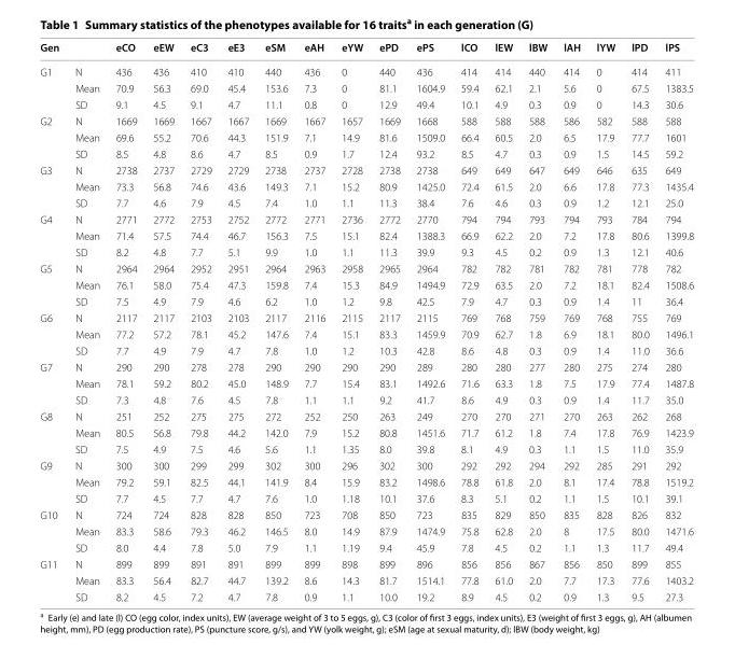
<table><thead><tr><td>Gen</td><td></td><td>eCO</td><td>eEW</td><td>eC3</td><td>eE3</td><td>eSM</td><td>eAH</td><td>eYW</td><td>ePD</td><td>ePS</td><td>lCO</td><td>lEW</td><td>lBW</td><td>lAH</td><td>lYW</td><td>lPD</td><td>lPS</td></tr></thead><tbody><tr><td rowspan="3">G1</td><td>N</td><td>436</td><td>436</td><td>410</td><td>410</td><td>440</td><td>436</td><td>0</td><td>440</td><td>436</td><td>414</td><td>414</td><td>440</td><td>414</td><td>0</td><td>414</td><td>411</td></tr><tr><td>Mean</td><td>70.9</td><td>56.3</td><td>69.0</td><td>45.4</td><td>153.6</td><td>7.3</td><td>0</td><td>81.1</td><td>1604.9</td><td>59.4</td><td>62.1</td><td>2.1</td><td>5.6</td><td>0</td><td>67.5</td><td>1383.5</td></tr><tr><td>SD</td><td>9.1</td><td>4.5</td><td>9.1</td><td>4.7</td><td>11.1</td><td>0.8</td><td>0</td><td>12.9</td><td>49.4</td><td>10.1</td><td>4.9</td><td>0.3</td><td>0.9</td><td>0</td><td>14.3</td><td>30.6</td></tr><tr><td rowspan="3">G2</td><td>N</td><td>1669</td><td>1669</td><td>1667</td><td>1667</td><td>1669</td><td>1667</td><td>1657</td><td>1669</td><td>1668</td><td>588</td><td>588</td><td>588</td><td>586</td><td>582</td><td>588</td><td>588</td></tr><tr><td>Mean</td><td>69.6</td><td>55.2</td><td>70.6</td><td>44.3</td><td>151.9</td><td>7.1</td><td>14.9</td><td>81.6</td><td>1509.0</td><td>66.4</td><td>60.5</td><td>2.0</td><td>6.5</td><td>17.9</td><td>77.7</td><td>1601</td></tr><tr><td>SD</td><td>8.5</td><td>4.8</td><td>8.6</td><td>4.7</td><td>8.5</td><td>0.9</td><td>1.7</td><td>12.4</td><td>93.2</td><td>8.5</td><td>4.7</td><td>0.3</td><td>0.9</td><td>1.5</td><td>14.5</td><td>59.2</td></tr><tr><td rowspan="3">G3</td><td>N</td><td>2738</td><td>2737</td><td>2729</td><td>2729</td><td>2738</td><td>2737</td><td>2728</td><td>2738</td><td>2738</td><td>649</td><td>649</td><td>647</td><td>649</td><td>646</td><td>635</td><td>649</td></tr><tr><td>Mean</td><td>73.3</td><td>56.8</td><td>74.6</td><td>43.6</td><td>149.3</td><td>7.1</td><td>15.2</td><td>80.9</td><td>1425.0</td><td>72.4</td><td>61.5</td><td>2.0</td><td>6.6</td><td>17.8</td><td>77.3</td><td>1435.4</td></tr><tr><td>SD</td><td>7.7</td><td>4.6</td><td>7.9</td><td>4.5</td><td>7.4</td><td>1.0</td><td>1.1</td><td>11.3</td><td>38.4</td><td>7.6</td><td>4.6</td><td>0.3</td><td>0.9</td><td>1.2</td><td>12.1</td><td>25.0</td></tr><tr><td rowspan="3">G4</td><td>N</td><td>2771</td><td>2772</td><td>2753</td><td>2752</td><td>2772</td><td>2771</td><td>2736</td><td>2772</td><td>2770</td><td>794</td><td>794</td><td>793</td><td>794</td><td>793</td><td>784</td><td>794</td></tr><tr><td>Mean</td><td>71.4</td><td>57.5</td><td>74.4</td><td>46.7</td><td>156.3</td><td>7.5</td><td>15.1</td><td>82.4</td><td>1388.3</td><td>66.9</td><td>62.2</td><td>2.0</td><td>7.2</td><td>17.8</td><td>80.6</td><td>1399.8</td></tr><tr><td>SD</td><td>8.2</td><td>4.8</td><td>7.7</td><td>5.1</td><td>9.9</td><td>1.0</td><td>1.1</td><td>11.3</td><td>39.9</td><td>9.3</td><td>4.5</td><td>0.2</td><td>0.9</td><td>1.3</td><td>12.1</td><td>40.6</td></tr><tr><td rowspan="3">G5</td><td>N</td><td>2964</td><td>2964</td><td>2952</td><td>2951</td><td>2964</td><td>2963</td><td>2958</td><td>2965</td><td>2964</td><td>782</td><td>782</td><td>781</td><td>782</td><td>781</td><td>778</td><td>782</td></tr><tr><td>Mean</td><td>76.1</td><td>58.0</td><td>75.4</td><td>47.3</td><td>159.8</td><td>7.4</td><td>15.3</td><td>84.9</td><td>1494.9</td><td>72.9</td><td>63.5</td><td>2.0</td><td>7.2</td><td>18.1</td><td>82.4</td><td>1508.6</td></tr><tr><td>SD</td><td>7.5</td><td>4.9</td><td>7.9</td><td>4.6</td><td>6.2</td><td>1.0</td><td>1.2</td><td>9.8</td><td>42.5</td><td>7.9</td><td>4.7</td><td>0.3</td><td>0.9</td><td>1.4</td><td>11</td><td>36.4</td></tr><tr><td rowspan="3">G6</td><td>N</td><td>2117</td><td>2117</td><td>2103</td><td>2103</td><td>2117</td><td>2116</td><td>2115</td><td>2117</td><td>2115</td><td>769</td><td>768</td><td>759</td><td>769</td><td>768</td><td>755</td><td>769</td></tr><tr><td>Mean</td><td>77.2</td><td>57.2</td><td>78.1</td><td>45.2</td><td>147.6</td><td>7.4</td><td>15.1</td><td>83.3</td><td>1459.9</td><td>70.9</td><td>62.7</td><td>1.8</td><td>6.9</td><td>18.1</td><td>80.0</td><td>1496.1</td></tr><tr><td>SD</td><td>7.7</td><td>4.9</td><td>7.9</td><td>4.7</td><td>7.8</td><td>1.0</td><td>1.2</td><td>10.3</td><td>42.8</td><td>8.6</td><td>4.8</td><td>0.3</td><td>0.9</td><td>1.4</td><td>11.0</td><td>36.6</td></tr><tr><td rowspan="3">G7</td><td>N</td><td>290</td><td>290</td><td>278</td><td>278</td><td>290</td><td>290</td><td>290</td><td>290</td><td>289</td><td>280</td><td>280</td><td>277</td><td>280</td><td>275</td><td>274</td><td>280</td></tr><tr><td>Mean</td><td>78.1</td><td>59.2</td><td>80.2</td><td>45.0</td><td>148.9</td><td>7.7</td><td>15.4</td><td>83.1</td><td>1492.6</td><td>71.6</td><td>63.3</td><td>1.8</td><td>7.5</td><td>17.9</td><td>77.4</td><td>1487.8</td></tr><tr><td>SD</td><td>7.3</td><td>4.8</td><td>7.6</td><td>4.5</td><td>7.8</td><td>1.1</td><td>1.1</td><td>9.2</td><td>41.7</td><td>8.6</td><td>4.9</td><td>0.3</td><td>0.9</td><td>1.4</td><td>11.7</td><td>35.0</td></tr><tr><td rowspan="3">G8</td><td>N</td><td>251</td><td>252</td><td>275</td><td>275</td><td>272</td><td>252</td><td>250</td><td>263</td><td>249</td><td>270</td><td>270</td><td>271</td><td>270</td><td>263</td><td>262</td><td>268</td></tr><tr><td>Mean</td><td>80.5</td><td>56.8</td><td>79.8</td><td>44.2</td><td>142.0</td><td>7.9</td><td>15.2</td><td>80.8</td><td>1451.6</td><td>71.7</td><td>61.2</td><td>1.8</td><td>7.4</td><td>17.8</td><td>76.9</td><td>1423.9</td></tr><tr><td>SD</td><td>7.5</td><td>4.9</td><td>7.5</td><td>4.6</td><td>5.6</td><td>1.1</td><td>1.35</td><td>8.0</td><td>39.8</td><td>8.1</td><td>4.9</td><td>0.3</td><td>1.1</td><td>1.5</td><td>11.0</td><td>35.9</td></tr><tr><td rowspan="3">G9</td><td>N</td><td>300</td><td>300</td><td>299</td><td>299</td><td>302</td><td>300</td><td>296</td><td>302</td><td>300</td><td>292</td><td>292</td><td>294</td><td>292</td><td>285</td><td>291</td><td>292</td></tr><tr><td>Mean</td><td>79.2</td><td>59.1</td><td>82.5</td><td>44.1</td><td>141.9</td><td>8.4</td><td>15.9</td><td>83.2</td><td>1498.6</td><td>78.8</td><td>61.8</td><td>2.0</td><td>8.1</td><td>17.4</td><td>78.8</td><td>1519.2</td></tr><tr><td>SD</td><td>7.7</td><td>4.5</td><td>7.7</td><td>4.7</td><td>7.6</td><td>1.0</td><td>1.18</td><td>10.1</td><td>37.6</td><td>8.3</td><td>5.1</td><td>0.2</td><td>1.1</td><td>1.5</td><td>10.1</td><td>39.1</td></tr><tr><td rowspan="3">G10</td><td>N</td><td>724</td><td>724</td><td>828</td><td>828</td><td>850</td><td>723</td><td>708</td><td>850</td><td>723</td><td>835</td><td>829</td><td>850</td><td>835</td><td>828</td><td>826</td><td>832</td></tr><tr><td>Mean</td><td>83.3</td><td>58.6</td><td>79.3</td><td>46.2</td><td>146.5</td><td>8.0</td><td>14.9</td><td>87.9</td><td>1474.9</td><td>75.8</td><td>62.8</td><td>2.0</td><td>8</td><td>17.5</td><td>80.0</td><td>1471.6</td></tr><tr><td>SD</td><td>8.0</td><td>4.4</td><td>7.8</td><td>5.0</td><td>7.9</td><td>1.1</td><td>1.19</td><td>9.4</td><td>45.9</td><td>7.8</td><td>4.5</td><td>0.2</td><td>1.1</td><td>1.3</td><td>11.7</td><td>49.4</td></tr><tr><td rowspan="3">G11</td><td>N</td><td>899</td><td>899</td><td>891</td><td>891</td><td>899</td><td>899</td><td>898</td><td>899</td><td>896</td><td>856</td><td>856</td><td>867</td><td>856</td><td>850</td><td>899</td><td>855</td></tr><tr><td>Mean</td><td>83.3</td><td>56.4</td><td>82.7</td><td>44.7</td><td>139.2</td><td>8.6</td><td>14.3</td><td>81.7</td><td>1514.1</td><td>77.8</td><td>61.0</td><td>2.0</td><td>7.7</td><td>17.3</td><td>77.6</td><td>1403.2</td></tr><tr><td>SD</td><td>8.2</td><td>4.5</td><td>7.2</td><td>4.7</td><td>7.8</td><td>0.9</td><td>1.1</td><td>10.0</td><td>19.2</td><td>8.9</td><td>4.5</td><td>0.2</td><td>0.9</td><td>1.3</td><td>9.5</td><td>27.3</td></tr></tbody></table>